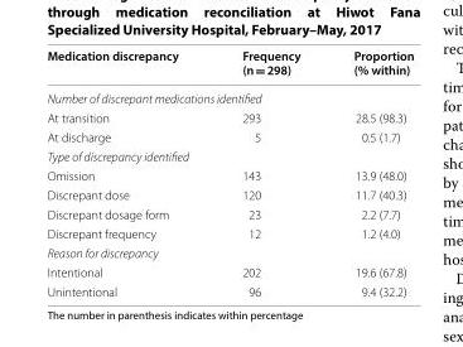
<table><thead><tr><td>Medication discrepancy</td><td>Frequency (n = 298)</td><td>Proportion (% within)</td></tr></thead><tbody><tr><td colspan="3">Number of discrepant medications identified</td></tr><tr><td>At transition</td><td>293</td><td>28.5 (98.3)</td></tr><tr><td>At discharge</td><td>5</td><td>0.5 (1.7)</td></tr><tr><td colspan="3">Type of discrepancy identified</td></tr><tr><td>Omission</td><td>143</td><td>13.9 (48.0)</td></tr><tr><td>Discrepant dose</td><td>120</td><td>11.7 (40.3)</td></tr><tr><td>Discrepant dosage form</td><td>23</td><td>2.2 (7.7)</td></tr><tr><td>Discrepant frequency</td><td>12</td><td>1.2 (4.0)</td></tr><tr><td colspan="3">Reason for discrepancy</td></tr><tr><td>Intentional</td><td>202</td><td>19.6 (67.8)</td></tr><tr><td>Unintentional</td><td>96</td><td>9.4 (32.2)</td></tr></tbody></table>